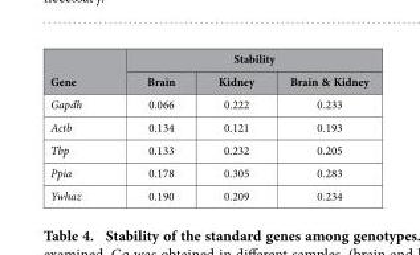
<table><thead><tr><td rowspan="2">Gene</td><td colspan="3">Stability</td></tr><tr><td>Brain</td><td>Kidney</td><td>Brain &amp; Kidney</td></tr></thead><tbody><tr><td>Gapdh</td><td>0.066</td><td>0.222</td><td>0.233</td></tr><tr><td>Actb</td><td>0.134</td><td>0.121</td><td>0.193</td></tr><tr><td>Tbp</td><td>0.133</td><td>0.232</td><td>0.205</td></tr><tr><td>Ppia</td><td>0.178</td><td>0.305</td><td>0.283</td></tr><tr><td>Ywhaz</td><td>0.190</td><td>0.209</td><td>0.234</td></tr></tbody></table>